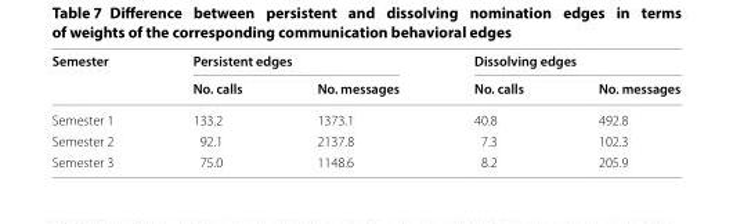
<table><thead><tr><td rowspan="2">Semester</td><td colspan="2">Persistent edges</td><td colspan="2">Dissolving edges</td></tr><tr><td>No. calls</td><td>No. messages</td><td>No. calls</td><td>No. messages</td></tr></thead><tbody><tr><td>Semester 1</td><td>133.2</td><td>1373.1</td><td>40.8</td><td>492.8</td></tr><tr><td>Semester 2</td><td>92.1</td><td>2137.8</td><td>7.3</td><td>102.3</td></tr><tr><td>Semester 3</td><td>75.0</td><td>1148.6</td><td>8.2</td><td>205.9</td></tr></tbody></table>